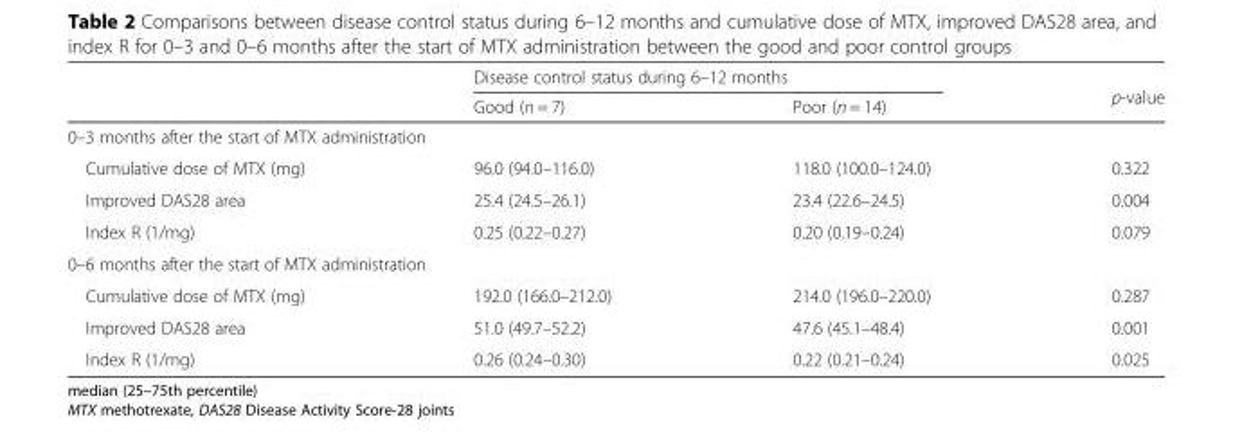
<table><thead><tr><td rowspan="2"></td><td colspan="2">Disease control status during 6–12 months</td><td rowspan="2">p-value</td></tr><tr><td>Good (n = 7)</td><td>Poor (n = 14)</td></tr></thead><tbody><tr><td colspan="4">0–3 months after the start of MTX administration</td></tr><tr><td>Cumulative dose of MTX (mg)</td><td>96.0 (94.0–116.0)</td><td>118.0 (100.0–124.0)</td><td>0.322</td></tr><tr><td>Improved DAS28 area</td><td>25.4 (24.5–26.1)</td><td>23.4 (22.6–24.5)</td><td>0.004</td></tr><tr><td>Index R (1/mg)</td><td>0.25 (0.22–0.27)</td><td>0.20 (0.19–0.24)</td><td>0.079</td></tr><tr><td colspan="4">0–6 months after the start of MTX administration</td></tr><tr><td>Cumulative dose of MTX (mg)</td><td>192.0 (166.0–212.0)</td><td>214.0 (196.0–220.0)</td><td>0.287</td></tr><tr><td>Improved DAS28 area</td><td>51.0 (49.7–52.2)</td><td>47.6 (45.1–48.4)</td><td>0.001</td></tr><tr><td>Index R (1/mg)</td><td>0.26 (0.24–0.30)</td><td>0.22 (0.21–0.24)</td><td>0.025</td></tr></tbody></table>